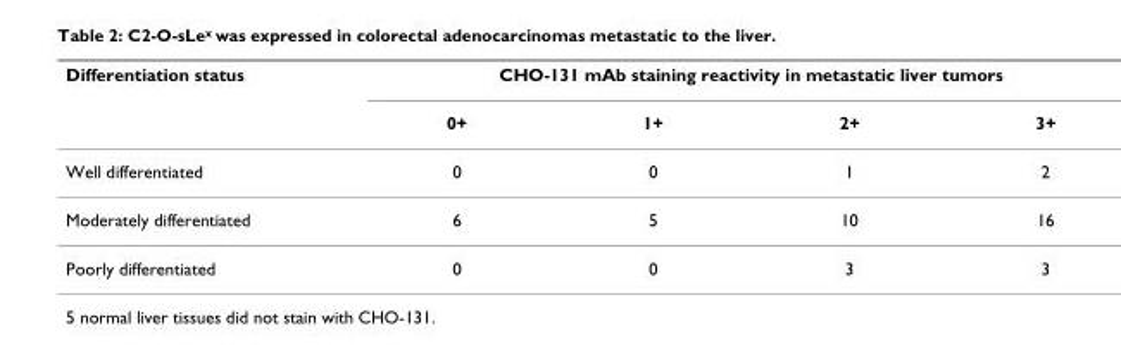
<table><thead><tr><td rowspan="2">Differentiation status</td><td colspan="4">CHO-131 mAb staining reactivity in metastatic liver tumors</td></tr><tr><td>0+</td><td>1+</td><td>2+</td><td>3+</td></tr></thead><tbody><tr><td>Well differentiated</td><td>0</td><td>0</td><td>1</td><td>2</td></tr><tr><td>Moderately differentiated</td><td>6</td><td>5</td><td>10</td><td>16</td></tr><tr><td>Poorly differentiated</td><td>0</td><td>0</td><td>3</td><td>3</td></tr></tbody></table>